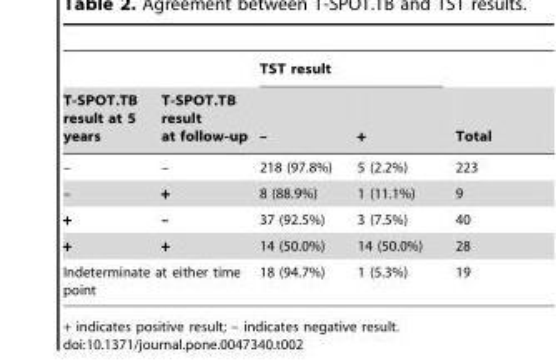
<table><thead><tr><td rowspan="2">T-SPOT.TB result at 5 years</td><td rowspan="2">T-SPOT.TB result at follow-up</td><td colspan="2">TST result</td><td rowspan="2">Total</td></tr><tr><td>–</td><td>+</td></tr></thead><tbody><tr><td>–</td><td>–</td><td>218 (97.8%)</td><td>5 (2.2%)</td><td>223</td></tr><tr><td>–</td><td>+</td><td>8 (88.9%)</td><td>1 (11.1%)</td><td>9</td></tr><tr><td>+</td><td>–</td><td>37 (92.5%)</td><td>3 (7.5%)</td><td>40</td></tr><tr><td>+</td><td>+</td><td>14 (50.0%)</td><td>14 (50.0%)</td><td>28</td></tr><tr><td colspan="2">Indeterminate at either time point</td><td>18 (94.7%)</td><td>1 (5.3%)</td><td>19</td></tr></tbody></table>